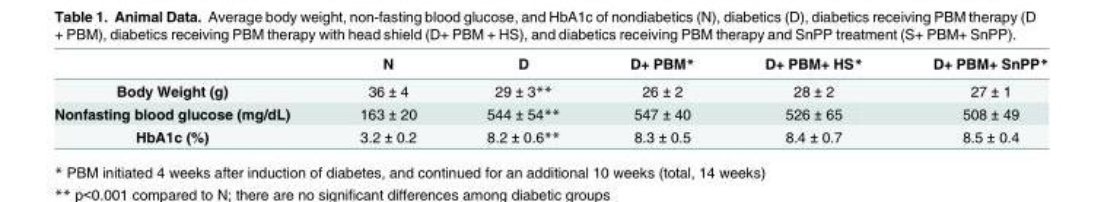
<table><thead><tr><td></td><td>N</td><td>D</td><td>D+ PBM*</td><td>D+ PBM+ HS*</td><td>D+ PBM+ SnPP*</td></tr></thead><tbody><tr><td>Body Weight (g)</td><td>36 ± 4</td><td>29 ± 3**</td><td>26 ± 2</td><td>28 ± 2</td><td>27 ± 1</td></tr><tr><td>Nonfasting blood glucose (mg/dL)</td><td>163 ± 20</td><td>544 ± 54**</td><td>547 ± 40</td><td>526 ± 65</td><td>508 ± 49</td></tr><tr><td>HbA1c (%)</td><td>3.2 ± 0.2</td><td>8.2 ± 0.6**</td><td>8.3 ± 0.5</td><td>8.4 ± 0.7</td><td>8.5 ± 0.4</td></tr></tbody></table>